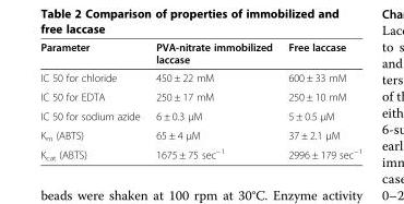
<table><thead><tr><td>Parameter</td><td>PVA-nitrate immobilized laccase</td><td>Free laccase</td></tr></thead><tbody><tr><td>IC 50 for chloride</td><td>450 ± 22 mM</td><td>600 ± 33 mM</td></tr><tr><td>IC 50 for EDTA</td><td>250 ± 17 mM</td><td>250 ± 10 mM</td></tr><tr><td>IC 50 for sodium azide</td><td>6 ± 0.3 μM</td><td>5 ± 0.5 μM</td></tr><tr><td>K<sub>m</sub> (ABTS)</td><td>65 ± 4 μM</td><td>37 ± 2.1 μM</td></tr><tr><td>K<sub>cat</sub> (ABTS)</td><td>1675 ± 75 sec<sup>−1</sup></td><td>2996 ± 179 sec<sup>−1</sup></td></tr></tbody></table>